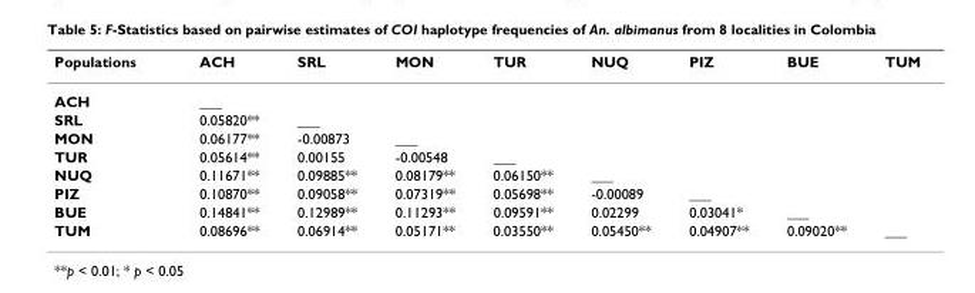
<table><thead><tr><td>Populations</td><td>ACH</td><td>SRL</td><td>MON</td><td>TUR</td><td>NUQ</td><td>PIZ</td><td>BUE</td><td>TUM</td></tr></thead><tbody><tr><td>ACH</td><td>___</td><td></td><td></td><td></td><td></td><td></td><td></td><td></td></tr><tr><td>SRL</td><td>0.05820**</td><td>___</td><td></td><td></td><td></td><td></td><td></td><td></td></tr><tr><td>MON</td><td>0.06177**</td><td>-0.00873</td><td>___</td><td></td><td></td><td></td><td></td><td></td></tr><tr><td>TUR</td><td>0.05614**</td><td>0.00155</td><td>-0.00548</td><td>___</td><td></td><td></td><td></td><td></td></tr><tr><td>NUQ</td><td>0.11671**</td><td>0.09885**</td><td>0.08179**</td><td>0.06150**</td><td>___</td><td></td><td></td><td></td></tr><tr><td>PIZ</td><td>0.10870**</td><td>0.09058**</td><td>0.07319**</td><td>0.05698**</td><td>-0.00089</td><td>___</td><td></td><td></td></tr><tr><td>BUE</td><td>0.14841**</td><td>0.12989**</td><td>0.11293**</td><td>0.09591**</td><td>0.02299</td><td>0.03041*</td><td>___</td><td></td></tr><tr><td>TUM</td><td>0.08696**</td><td>0.06914**</td><td>0.05171**</td><td>0.03550**</td><td>0.05450**</td><td>0.04907**</td><td>0.09020**</td><td>___</td></tr></tbody></table>